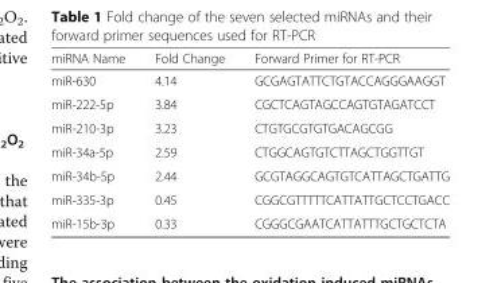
<table><thead><tr><td>miRNA Name</td><td>Fold Change</td><td>Forward Primer for RT-PCR</td></tr></thead><tbody><tr><td>miR-630</td><td>4.14</td><td>GCGAGTATTCTGTACCAGGGAAGGT</td></tr><tr><td>miR-222-5p</td><td>3.84</td><td>CGCTCAGTAGCCAGTGTAGATCCT</td></tr><tr><td>miR-210-3p</td><td>3.23</td><td>CTGTGCGTGTGACAGCGG</td></tr><tr><td>miR-34a-5p</td><td>2.59</td><td>CTGGCAGTGTCTTAGCTGGTTGT</td></tr><tr><td>miR-34b-5p</td><td>2.44</td><td>GCGTAGGCAGTGTCATTAGCTGATTG</td></tr><tr><td>miR-335-3p</td><td>0.45</td><td>CGGCGTTTTTCATTATTGCTCCTGACC</td></tr><tr><td>miR-15b-3p</td><td>0.33</td><td>CGGGCGAATCATTATTTGCTGCTCTA</td></tr></tbody></table>